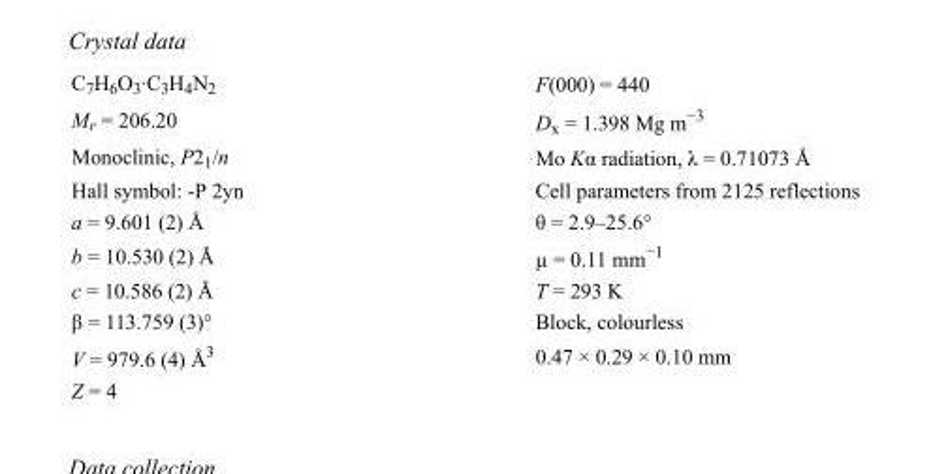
<table><tbody><tr><td>C<sub>7</sub>H<sub>6</sub>O<sub>3</sub>·C<sub>3</sub>H<sub>4</sub>N<sub>2</sub></td><td>F(000) = 440</td></tr><tr><td>M<sub>r</sub> = 206.20</td><td>D<sub>x</sub> = 1.398 Mg m<sup>−3</sup></td></tr><tr><td>Monoclinic, P2<sub>1</sub>/n</td><td>Mo Kα radiation, λ = 0.71073 Å</td></tr><tr><td>Hall symbol: -P 2yn</td><td>Cell parameters from 2125 reflections</td></tr><tr><td>a = 9.601 (2) Å</td><td>θ = 2.9–25.6°</td></tr><tr><td>b = 10.530 (2) Å</td><td>µ = 0.11 mm<sup>−1</sup></td></tr><tr><td>c = 10.586 (2) Å</td><td>T = 293 K</td></tr><tr><td>β = 113.759 (3)°</td><td>Block, colourless</td></tr><tr><td>V = 979.6 (4) Å<sup>3</sup></td><td>0.47 × 0.29 × 0.10 mm</td></tr><tr><td>Z = 4</td><td></td></tr></tbody></table>